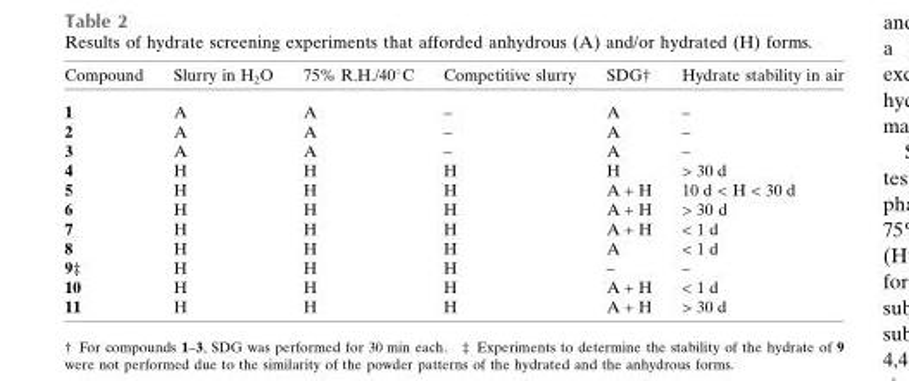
<table><thead><tr><td>Compound</td><td>Slurry in H<sub>2</sub>O</td><td>75% R.H./40°C</td><td>Competitive slurry</td><td>SDG†</td><td>Hydrate stability in air</td></tr></thead><tbody><tr><td>1</td><td>A</td><td>A</td><td>–</td><td>A</td><td>–</td></tr><tr><td>2</td><td>A</td><td>A</td><td>–</td><td>A</td><td>–</td></tr><tr><td>3</td><td>A</td><td>A</td><td>–</td><td>A</td><td>–</td></tr><tr><td>4</td><td>H</td><td>H</td><td>H</td><td>H</td><td>&gt; 30 d</td></tr><tr><td>5</td><td>H</td><td>H</td><td>H</td><td>A + H</td><td>10 d &lt; H &lt; 30 d</td></tr><tr><td>6</td><td>H</td><td>H</td><td>H</td><td>A + H</td><td>&gt; 30 d</td></tr><tr><td>7</td><td>H</td><td>H</td><td>H</td><td>A + H</td><td>&lt; 1 d</td></tr><tr><td>8</td><td>H</td><td>H</td><td>H</td><td>A</td><td>&lt; 1 d</td></tr><tr><td>9‡</td><td>H</td><td>H</td><td>H</td><td>–</td><td>–</td></tr><tr><td>10</td><td>H</td><td>H</td><td>H</td><td>A + H</td><td>&lt; 1 d</td></tr><tr><td>11</td><td>H</td><td>H</td><td>H</td><td>A + H</td><td>&gt; 30 d</td></tr></tbody></table>